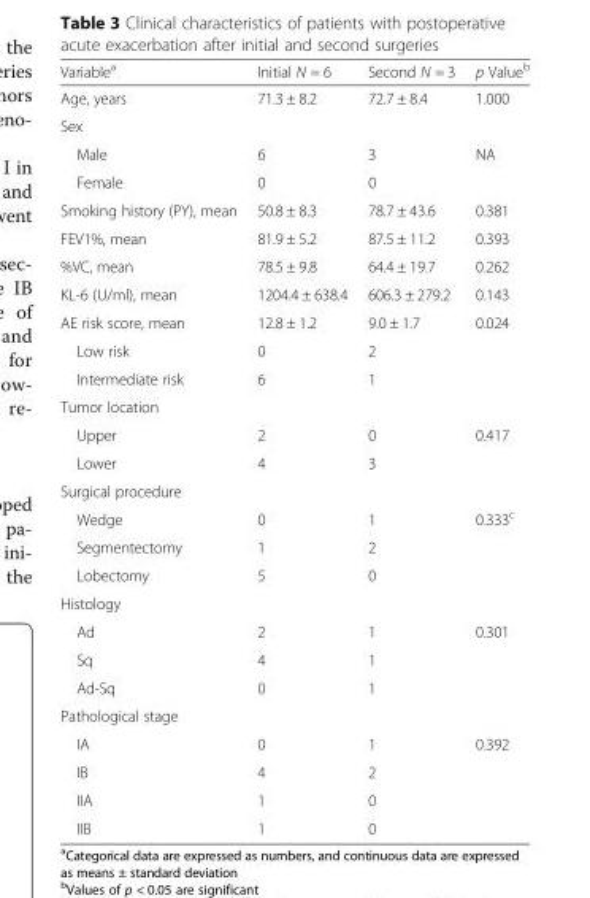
<table><thead><tr><td>Variable<sup>a</sup></td><td>Initial N = 6</td><td>Second N = 3</td><td>p Value<sup>b</sup></td></tr></thead><tbody><tr><td>Age, years</td><td>71.3 ± 8.2</td><td>72.7 ± 8.4</td><td>1.000</td></tr><tr><td colspan="4">Sex</td></tr><tr><td>Male</td><td>6</td><td>3</td><td rowspan="2">NA</td></tr><tr><td>Female</td><td>0</td><td>0</td></tr><tr><td>Smoking history (PY), mean</td><td>50.8 ± 8.3</td><td>78.7 ± 43.6</td><td>0.381</td></tr><tr><td>FEV1%, mean</td><td>81.9 ± 5.2</td><td>87.5 ± 11.2</td><td>0.393</td></tr><tr><td>%VC, mean</td><td>78.5 ± 9.8</td><td>64.4 ± 19.7</td><td>0.262</td></tr><tr><td>KL-6 (U/ml), mean</td><td>1204.4 ± 638.4</td><td>606.3 ± 279.2</td><td>0.143</td></tr><tr><td>AE risk score, mean</td><td>12.8 ± 1.2</td><td>9.0 ± 1.7</td><td>0.024</td></tr><tr><td>Low risk</td><td>0</td><td>2</td><td></td></tr><tr><td>Intermediate risk</td><td>6</td><td>1</td><td></td></tr><tr><td colspan="4">Tumor location</td></tr><tr><td>Upper</td><td>2</td><td>0</td><td rowspan="2">0.417</td></tr><tr><td>Lower</td><td>4</td><td>3</td></tr><tr><td colspan="4">Surgical procedure</td></tr><tr><td>Wedge</td><td>0</td><td>1</td><td rowspan="3">0.333<sup>c</sup></td></tr><tr><td>Segmentectomy</td><td>1</td><td>2</td></tr><tr><td>Lobectomy</td><td>5</td><td>0</td></tr><tr><td colspan="4">Histology</td></tr><tr><td>Ad</td><td>2</td><td>1</td><td rowspan="3">0.301</td></tr><tr><td>Sq</td><td>4</td><td>1</td></tr><tr><td>Ad-Sq</td><td>0</td><td>1</td></tr><tr><td colspan="4">Pathological stage</td></tr><tr><td>IA</td><td>0</td><td>1</td><td rowspan="4">0.392</td></tr><tr><td>IB</td><td>4</td><td>2</td></tr><tr><td>IIA</td><td>1</td><td>0</td></tr><tr><td>IIB</td><td>1</td><td>0</td></tr></tbody></table>